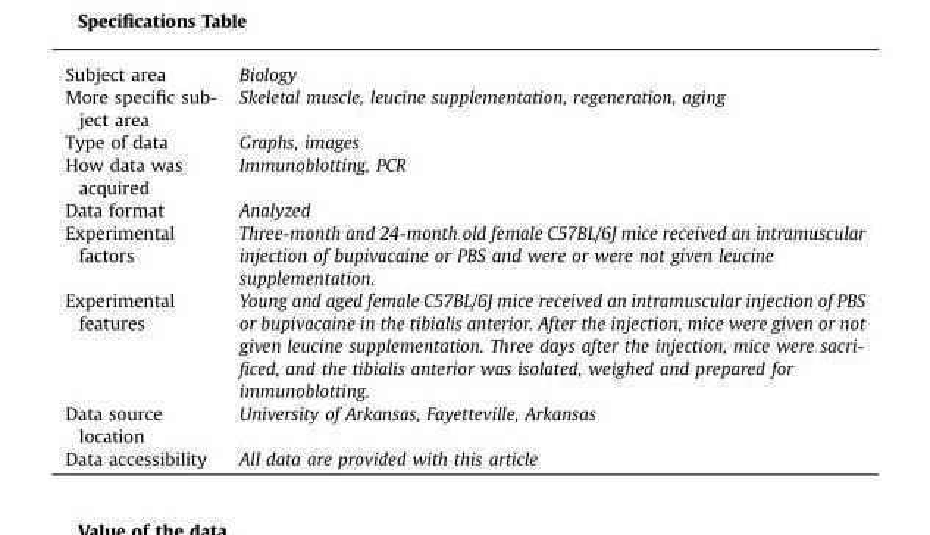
<table><tbody><tr><td>Subject area</td><td>Biology</td></tr><tr><td>More specific sub- ject area</td><td>Skeletal muscle, leucine supplementation, regeneration, aging</td></tr><tr><td>Type of data</td><td>Graphs, images</td></tr><tr><td>How data was acquired</td><td>Immunoblotting, PCR</td></tr><tr><td>Data format</td><td>Analyzed</td></tr><tr><td>Experimental factors</td><td>Three-month and 24-month old female C57BL/6J mice received an intramuscular injection of bupivacaine or PBS and were or were not given leucine supplementation.</td></tr><tr><td>Experimental features</td><td>Young and aged female C57BL/6J mice received an intramuscular injection of PBS or bupivacaine in the tibialis anterior. After the injection, mice were given or not given leucine supplementation. Three days after the injection, mice were sacri- ficed, and the tibialis anterior was isolated, weighed and prepared for immunoblotting.</td></tr><tr><td>Data source location</td><td>University of Arkansas, Fayetteville, Arkansas</td></tr><tr><td>Data accessibility</td><td>All data are provided with this article</td></tr></tbody></table>